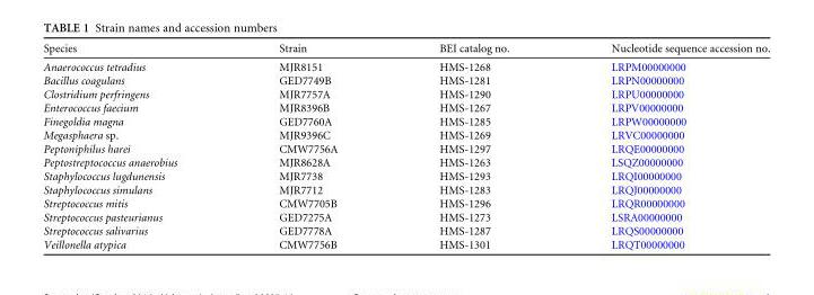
<table><thead><tr><td>Species</td><td>Strain</td><td>BEI catalog no.</td><td>Nucleotide sequence accession no.</td></tr></thead><tbody><tr><td>Anaerococcus tetradius</td><td>MJR8151</td><td>HMS-1268</td><td>LRPM00000000</td></tr><tr><td>Bacillus coagulans</td><td>GED7749B</td><td>HMS-1281</td><td>LRPN00000000</td></tr><tr><td>Clostridium perfringens</td><td>MJR7757A</td><td>HMS-1290</td><td>LRPU00000000</td></tr><tr><td>Enterococcus faecium</td><td>MJR8396B</td><td>HMS-1267</td><td>LRPV00000000</td></tr><tr><td>Finegoldia magna</td><td>GED7760A</td><td>HMS-1285</td><td>LRPW00000000</td></tr><tr><td>Megasphaera sp.</td><td>MJR9396C</td><td>HMS-1269</td><td>LRVC00000000</td></tr><tr><td>Peptoniphilus harei</td><td>CMW7756A</td><td>HMS-1297</td><td>LRQE00000000</td></tr><tr><td>Peptostreptococcus anaerobius</td><td>MJR8628A</td><td>HMS-1263</td><td>LSQZ00000000</td></tr><tr><td>Staphylococcus lugdunensis</td><td>MJR7738</td><td>HMS-1293</td><td>LRQI00000000</td></tr><tr><td>Staphylococcus simulans</td><td>MJR7712</td><td>HMS-1283</td><td>LRQJ00000000</td></tr><tr><td>Streptococcus mitis</td><td>CMW7705B</td><td>HMS-1296</td><td>LRQR00000000</td></tr><tr><td>Streptococcus pasteurianus</td><td>GED7275A</td><td>HMS-1273</td><td>LSRA00000000</td></tr><tr><td>Streptococcus salivarius</td><td>GED7778A</td><td>HMS-1287</td><td>LRQS00000000</td></tr><tr><td>Veillonella atypica</td><td>CMW7756B</td><td>HMS-1301</td><td>LRQT00000000</td></tr></tbody></table>